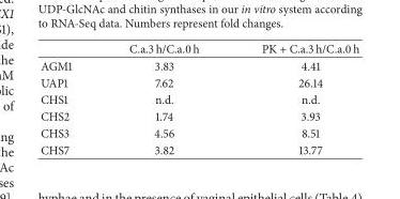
<table><thead><tr><td></td><td>C.a.3 h/C.a.0 h</td><td>PK + C.a.3 h/C.a.0 h</td></tr></thead><tbody><tr><td>AGM1</td><td>3.83</td><td>4.41</td></tr><tr><td>UAP1</td><td>7.62</td><td>26.14</td></tr><tr><td>CHS1</td><td>n.d.</td><td>n.d.</td></tr><tr><td>CHS2</td><td>1.74</td><td>3.93</td></tr><tr><td>CHS3</td><td>4.56</td><td>8.51</td></tr><tr><td>CHS7</td><td>3.82</td><td>13.77</td></tr></tbody></table>